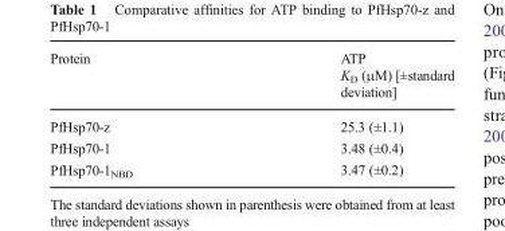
<table><thead><tr><td rowspan="2">Protein</td><td rowspan="2">ATP K<sub>D</sub> (μM) [±standard deviation]</td></tr><tr></tr></thead><tbody><tr><td>PfHsp70-z</td><td>25.3 (±1.1)</td></tr><tr><td>PfHsp70-1</td><td>3.48 (±0.4)</td></tr><tr><td>PfHsp70-1<sub>NBD</sub></td><td>3.47 (±0.2)</td></tr></tbody></table>